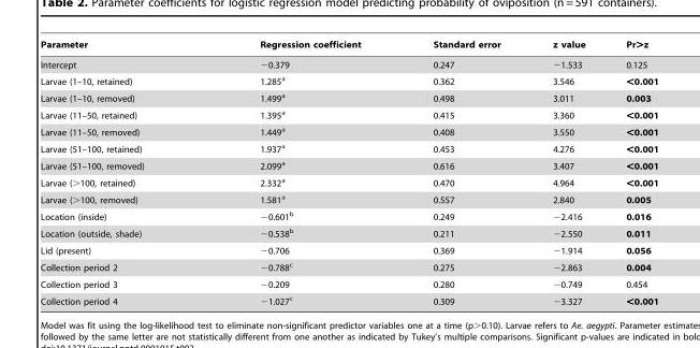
<table><thead><tr><td>Parameter</td><td>Regression coefficient</td><td>Standard error</td><td>z value</td><td>Pr&gt;z</td></tr></thead><tbody><tr><td>Intercept</td><td>−0.379</td><td>0.247</td><td>−1.533</td><td>0.125</td></tr><tr><td>Larvae (1–10, retained)</td><td>1.285<sup>a</sup></td><td>0.362</td><td>3.546</td><td>&lt;0.001</td></tr><tr><td>Larvae (1–10, removed)</td><td>1.499<sup>a</sup></td><td>0.498</td><td>3.011</td><td>0.003</td></tr><tr><td>Larvae (11–50, retained)</td><td>1.395<sup>a</sup></td><td>0.415</td><td>3.360</td><td>&lt;0.001</td></tr><tr><td>Larvae (11–50, removed)</td><td>1.449<sup>a</sup></td><td>0.408</td><td>3.550</td><td>&lt;0.001</td></tr><tr><td>Larvae (51–100, retained)</td><td>1.937<sup>a</sup></td><td>0.453</td><td>4.276</td><td>&lt;0.001</td></tr><tr><td>Larvae (51–100, removed)</td><td>2.099<sup>a</sup></td><td>0.616</td><td>3.407</td><td>&lt;0.001</td></tr><tr><td>Larvae (&gt;100, retained)</td><td>2.332<sup>a</sup></td><td>0.470</td><td>4.964</td><td>&lt;0.001</td></tr><tr><td>Larvae (&gt;100, removed)</td><td>1.581<sup>a</sup></td><td>0.557</td><td>2.840</td><td>0.005</td></tr><tr><td>Location (inside)</td><td>−0.601<sup>b</sup></td><td>0.249</td><td>−2.416</td><td>0.016</td></tr><tr><td>Location (outside, shade)</td><td>−0.538<sup>b</sup></td><td>0.211</td><td>−2.550</td><td>0.011</td></tr><tr><td>Lid (present)</td><td>−0.706</td><td>0.369</td><td>−1.914</td><td>0.056</td></tr><tr><td>Collection period 2</td><td>−0.788<sup>c</sup></td><td>0.275</td><td>−2.863</td><td>0.004</td></tr><tr><td>Collection period 3</td><td>−0.209</td><td>0.280</td><td>−0.749</td><td>0.454</td></tr><tr><td>Collection period 4</td><td>−1.027<sup>c</sup></td><td>0.309</td><td>−3.327</td><td>&lt;0.001</td></tr></tbody></table>